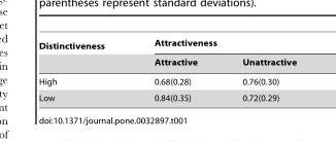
<table><thead><tr><td rowspan="2">Distinctiveness</td><td colspan="2">Attractiveness</td></tr><tr><td>Attractive</td><td>Unattractive</td></tr></thead><tbody><tr><td>High</td><td>0.68(0.28)</td><td>0.76(0.30)</td></tr><tr><td>Low</td><td>0.84(0.35)</td><td>0.72(0.29)</td></tr></tbody></table>